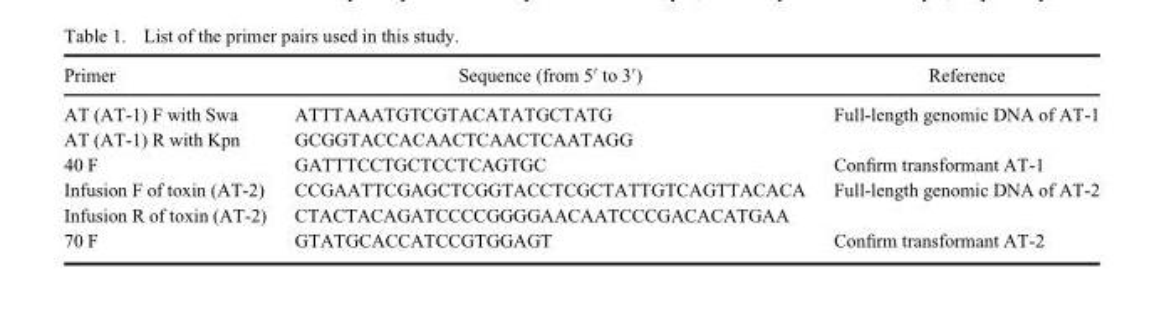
<table><thead><tr><td>Primer</td><td>Sequence (from 5′ to 3′)</td><td>Reference</td></tr></thead><tbody><tr><td>AT (AT-1) F with Swa</td><td>ATTTAAATGTCGTACATATGCTATG</td><td>Full-length genomic DNA of AT-1</td></tr><tr><td>AT (AT-1) R with Kpn</td><td>GCGGTACCACAACTCAACTCAATAGG</td><td></td></tr><tr><td>40 F</td><td>GATTTCCTGCTCCTCAGTGC</td><td>Confirm transformant AT-1</td></tr><tr><td>Infusion F of toxin (AT-2)</td><td>CCGAATTCGAGCTCGGTACCTCGCTATTGTCAGTTACACA</td><td>Full-length genomic DNA of AT-2</td></tr><tr><td>Infusion R of toxin (AT-2)</td><td>CTACTACAGATCCCCGGGGAACAATCCCGACACATGAA</td><td></td></tr><tr><td>70 F</td><td>GTATGCACCATCCGTGGAGT</td><td>Confirm transformant AT-2</td></tr></tbody></table>